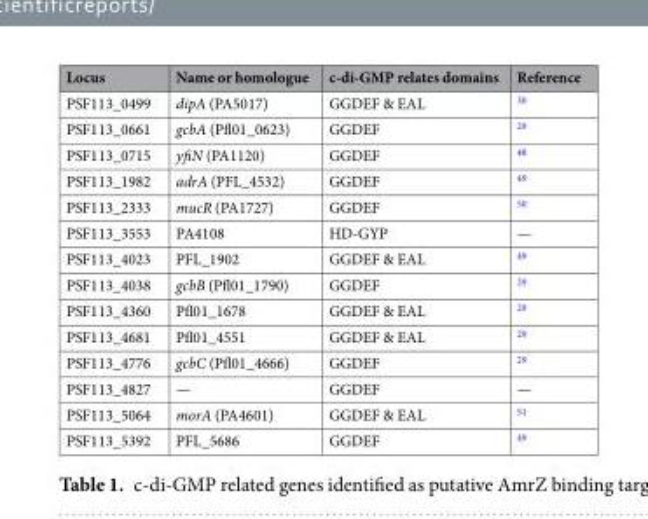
<table><thead><tr><td>Locus</td><td>Name or homologue</td><td>c-di-GMP relates domains</td><td>Reference</td></tr></thead><tbody><tr><td>PSF113_0499</td><td>dipA (PA5017)</td><td>GGDEF &amp; EAL</td><td><sup>30</sup></td></tr><tr><td>PSF113_0661</td><td>gcbA (Pfl01_0623)</td><td>GGDEF</td><td><sup>29</sup></td></tr><tr><td>PSF113_0715</td><td>yfiN (PA1120)</td><td>GGDEF</td><td><sup>48</sup></td></tr><tr><td>PSF113_1982</td><td>adrA (PFL_4532)</td><td>GGDEF</td><td><sup>49</sup></td></tr><tr><td>PSF113_2333</td><td>mucR (PA1727)</td><td>GGDEF</td><td><sup>50</sup></td></tr><tr><td>PSF113_3553</td><td>PA4108</td><td>HD-GYP</td><td>—</td></tr><tr><td>PSF113_4023</td><td>PFL_1902</td><td>GGDEF &amp; EAL</td><td><sup>49</sup></td></tr><tr><td>PSF113_4038</td><td>gcbB (Pfl01_1790)</td><td>GGDEF</td><td><sup>29</sup></td></tr><tr><td>PSF113_4360</td><td>Pfl01_1678</td><td>GGDEF &amp; EAL</td><td><sup>29</sup></td></tr><tr><td>PSF113_4681</td><td>Pfl01_4551</td><td>GGDEF &amp; EAL</td><td><sup>29</sup></td></tr><tr><td>PSF113_4776</td><td>gcbC (Pfl01_4666)</td><td>GGDEF</td><td><sup>29</sup></td></tr><tr><td>PSF113_4827</td><td>—</td><td>GGDEF</td><td>—</td></tr><tr><td>PSF113_5064</td><td>morA (PA4601)</td><td>GGDEF &amp; EAL</td><td><sup>51</sup></td></tr><tr><td>PSF113_5392</td><td>PFL_5686</td><td>GGDEF</td><td><sup>49</sup></td></tr></tbody></table>